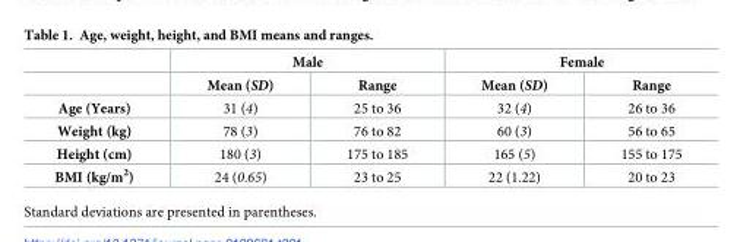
<table><thead><tr><td rowspan="2"></td><td colspan="2">Male</td><td colspan="2">Female</td></tr><tr><td>Mean (SD)</td><td>Range</td><td>Mean (SD)</td><td>Range</td></tr></thead><tbody><tr><td>Age (Years)</td><td>31 (4)</td><td>25 to 36</td><td>32 (4)</td><td>26 to 36</td></tr><tr><td>Weight (kg)</td><td>78 (3)</td><td>76 to 82</td><td>60 (3)</td><td>56 to 65</td></tr><tr><td>Height (cm)</td><td>180 (3)</td><td>175 to 185</td><td>165 (5)</td><td>155 to 175</td></tr><tr><td>BMI (kg/m<sup>2</sup>)</td><td>24 (0.65)</td><td>23 to 25</td><td>22 (1.22)</td><td>20 to 23</td></tr></tbody></table>